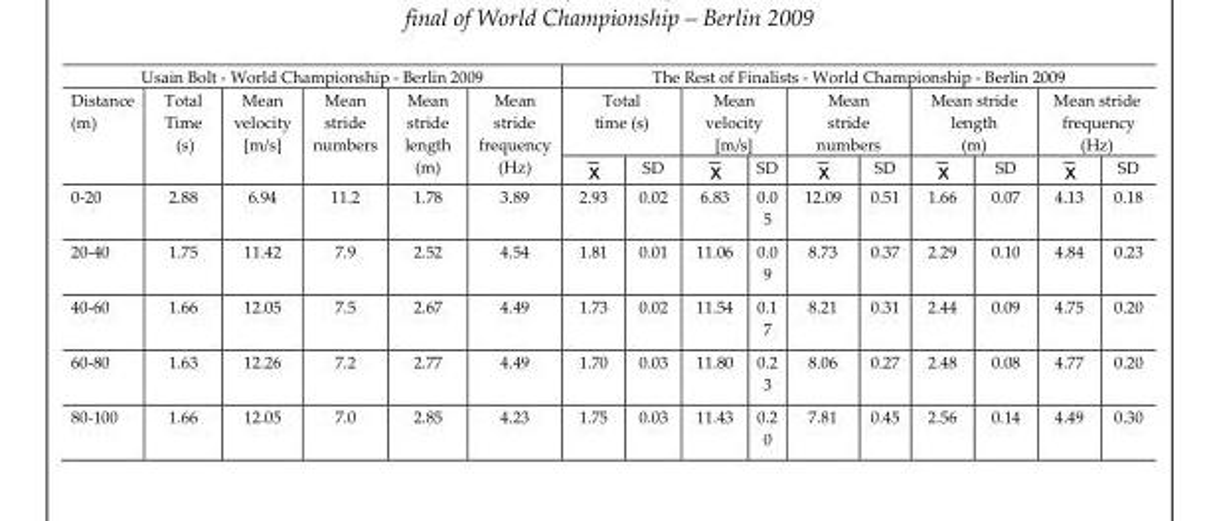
<table><thead><tr><td colspan="6">Usain Bolt - World Championship - Berlin 2009</td><td colspan="10">The Rest of Finalists - World Championship - Berlin 2009</td></tr><tr><td rowspan="2">Distance (m)</td><td rowspan="2">Total Time (s)</td><td rowspan="2">Mean velocity [m/s]</td><td rowspan="2">Mean stride numbers</td><td rowspan="2">Mean stride length (m)</td><td rowspan="2">Mean stride frequency (Hz)</td><td colspan="2">Total time (s)</td><td colspan="2">Mean velocity [m/s]</td><td colspan="2">Mean stride numbers</td><td colspan="2">Mean stride length (m)</td><td colspan="2">Mean stride frequency (Hz)</td></tr><tr><td>x</td><td>SD</td><td>x</td><td>SD</td><td>x</td><td>SD</td><td>x</td><td>SD</td><td>x</td><td>SD</td></tr></thead><tbody><tr><td>0-20</td><td>2.88</td><td>6.94</td><td>11.2</td><td>1.78</td><td>3.89</td><td>2.93</td><td>0.02</td><td>6.83</td><td>0.0 5</td><td>12.09</td><td>0.51</td><td>1.66</td><td>0.07</td><td>4.13</td><td>0.18</td></tr><tr><td>20-40</td><td>1.75</td><td>11.42</td><td>7.9</td><td>2.52</td><td>4.54</td><td>1.81</td><td>0.01</td><td>11.06</td><td>0.0 9</td><td>8.73</td><td>0.37</td><td>2.29</td><td>0.10</td><td>4.84</td><td>0.23</td></tr><tr><td>40-60</td><td>1.66</td><td>12.05</td><td>7.5</td><td>2.67</td><td>4.49</td><td>1.73</td><td>0.02</td><td>11.54</td><td>0.1 7</td><td>8.21</td><td>0.31</td><td>2.44</td><td>0.09</td><td>4.75</td><td>0.20</td></tr><tr><td>60-80</td><td>1.63</td><td>12.26</td><td>7.2</td><td>2.77</td><td>4.49</td><td>1.70</td><td>0.03</td><td>11.80</td><td>0.2 3</td><td>8.06</td><td>0.27</td><td>2.48</td><td>0.08</td><td>4.77</td><td>0.20</td></tr><tr><td>80-100</td><td>1.66</td><td>12.05</td><td>7.0</td><td>2.85</td><td>4.23</td><td>1.75</td><td>0.03</td><td>11.43</td><td>0.2 0</td><td>7.81</td><td>0.45</td><td>2.56</td><td>0.14</td><td>4.49</td><td>0.30</td></tr></tbody></table>